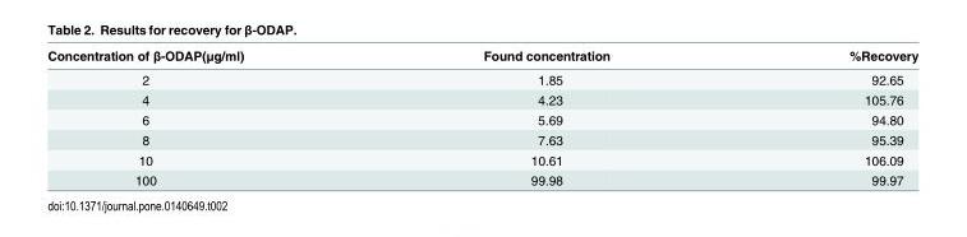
<table><thead><tr><td>Concentration of β-ODAP(μg/ml)</td><td>Found concentration</td><td>%Recovery</td></tr></thead><tbody><tr><td>2</td><td>1.85</td><td>92.65</td></tr><tr><td>4</td><td>4.23</td><td>105.76</td></tr><tr><td>6</td><td>5.69</td><td>94.80</td></tr><tr><td>8</td><td>7.63</td><td>95.39</td></tr><tr><td>10</td><td>10.61</td><td>106.09</td></tr><tr><td>100</td><td>99.98</td><td>99.97</td></tr></tbody></table>